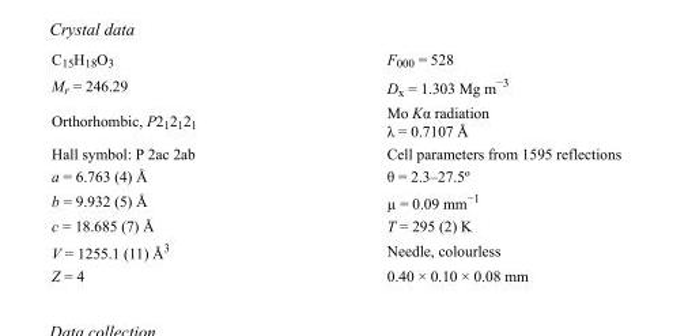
<table><tbody><tr><td>C<sub>15</sub>H<sub>18</sub>O<sub>3</sub></td><td>F<sub>000</sub> = 528</td></tr><tr><td>M<sub>r</sub> = 246.29</td><td>D<sub>x</sub> = 1.303 Mg m<sup>−3</sup></td></tr><tr><td>Orthorhombic, P2<sub>1</sub>2<sub>1</sub>2<sub>1</sub></td><td>Mo Kα radiation λ = 0.7107 Å</td></tr><tr><td>Hall symbol: P 2ac 2ab</td><td>Cell parameters from 1595 reflections</td></tr><tr><td>a = 6.763 (4) Å</td><td>θ = 2.3–27.5º</td></tr><tr><td>b = 9.932 (5) Å</td><td>µ = 0.09 mm<sup>−1</sup></td></tr><tr><td>c = 18.685 (7) Å</td><td>T = 295 (2) K</td></tr><tr><td>V = 1255.1 (11) Å<sup>3</sup></td><td>Needle, colourless</td></tr><tr><td>Z = 4</td><td>0.40 × 0.10 × 0.08 mm</td></tr></tbody></table>